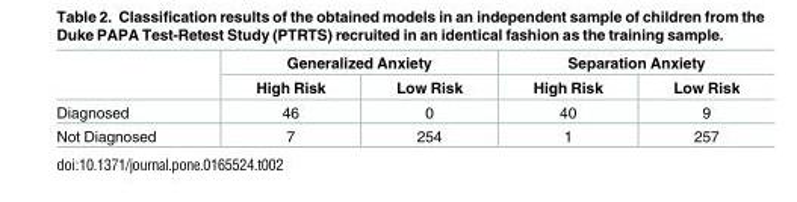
<table><thead><tr><td rowspan="2"></td><td colspan="2">Generalized Anxiety</td><td colspan="2">Separation Anxiety</td></tr><tr><td>High Risk</td><td>Low Risk</td><td>High Risk</td><td>Low Risk</td></tr></thead><tbody><tr><td>Diagnosed</td><td>46</td><td>0</td><td>40</td><td>9</td></tr><tr><td>Not Diagnosed</td><td>7</td><td>254</td><td>1</td><td>257</td></tr></tbody></table>